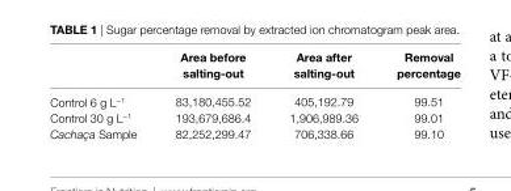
<table><thead><tr><td></td><td>area before salting-out</td><td>area after salting-out</td><td>removal percentage</td></tr></thead><tbody><tr><td>Control 6 g L<sup>−1</sup></td><td>83,180,455.52</td><td>405,192.79</td><td>99.51</td></tr><tr><td>Control 30 g L<sup>−1</sup></td><td>193,679,686.4</td><td>1,906,989.36</td><td>99.01</td></tr><tr><td>Cachaça Sample</td><td>82,252,299.47</td><td>706,338.66</td><td>99.10</td></tr></tbody></table>